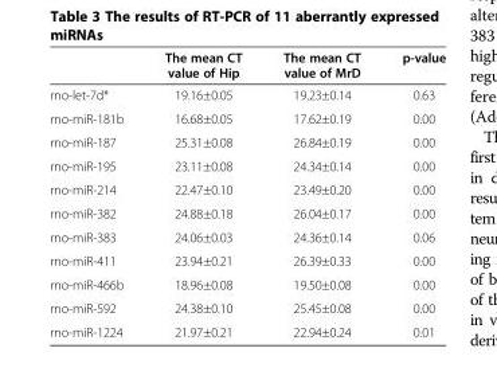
<table><thead><tr><td></td><td>The mean CT value of Hip</td><td>The mean CT value of MrD</td><td>p-value</td></tr></thead><tbody><tr><td>rno-let-7d*</td><td>19.16±0.05</td><td>19.23±0.14</td><td>0.63</td></tr><tr><td>rno-miR-181b</td><td>16.68±0.05</td><td>17.62±0.19</td><td>0.00</td></tr><tr><td>rno-miR-187</td><td>25.31±0.08</td><td>26.84±0.19</td><td>0.00</td></tr><tr><td>rno-miR-195</td><td>23.11±0.08</td><td>24.34±0.14</td><td>0.00</td></tr><tr><td>rno-miR-214</td><td>22.47±0.10</td><td>23.49±0.20</td><td>0.00</td></tr><tr><td>rno-miR-382</td><td>24.88±0.18</td><td>26.04±0.17</td><td>0.00</td></tr><tr><td>rno-miR-383</td><td>24.06±0.03</td><td>24.36±0.14</td><td>0.06</td></tr><tr><td>rno-miR-411</td><td>23.94±0.21</td><td>26.39±0.33</td><td>0.00</td></tr><tr><td>rno-miR-466b</td><td>18.96±0.08</td><td>19.50±0.08</td><td>0.00</td></tr><tr><td>rno-miR-592</td><td>24.38±0.10</td><td>25.45±0.08</td><td>0.00</td></tr><tr><td>rno-miR-1224</td><td>21.97±0.21</td><td>22.94±0.24</td><td>0.01</td></tr></tbody></table>